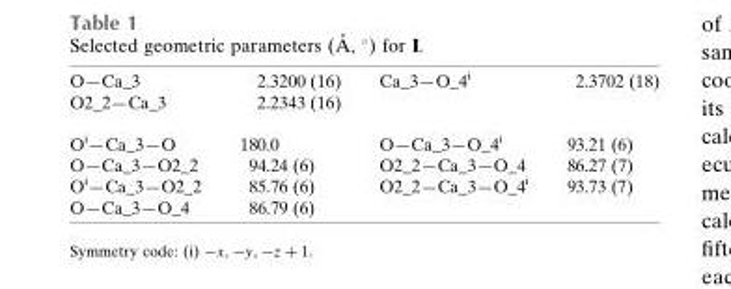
<table><tbody><tr><td>O—Ca_3</td><td>2.3200 (16)</td><td>Ca_3—O_4<sup>i</sup></td><td>2.3702 (18)</td></tr><tr><td>O2_2—Ca_3</td><td>2.2343 (16)</td><td></td><td></td></tr><tr><td>O<sup>i</sup>—Ca_3—O</td><td>180.0</td><td>O—Ca_3—O_4<sup>i</sup></td><td>93.21 (6)</td></tr><tr><td>O—Ca_3—O2_2</td><td>94.24 (6)</td><td>O2_2—Ca_3—O_4</td><td>86.27 (7)</td></tr><tr><td>O<sup>i</sup>—Ca_3—O2_2</td><td>85.76 (6)</td><td>O2_2—Ca_3—O_4<sup>i</sup></td><td>93.73 (7)</td></tr><tr><td>O—Ca_3—O_4</td><td>86.79 (6)</td><td></td><td></td></tr></tbody></table>